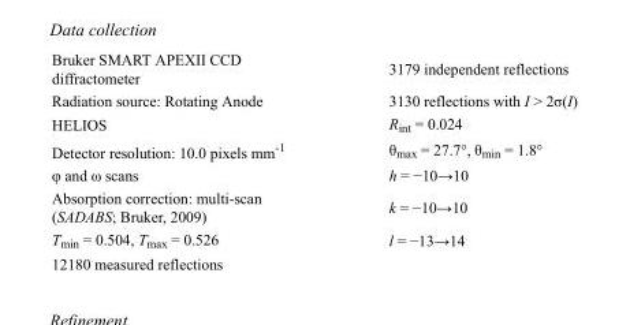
<table><tbody><tr><td>Bruker SMART APEXII CCD diffractometer</td><td>3179 independent reflections</td></tr><tr><td>Radiation source: Rotating Anode</td><td>3130 reflections with I &gt; 2σ(I)</td></tr><tr><td>HELIOS</td><td>R<sub>int</sub> = 0.024</td></tr><tr><td>Detector resolution: 10.0 pixels mm<sup>-1</sup></td><td>θ<sub>max</sub> = 27.7°, θ<sub>min</sub> = 1.8°</td></tr><tr><td>φ and ω scans</td><td>h = −10→10</td></tr><tr><td>Absorption correction: multi-scan (SADABS; Bruker, 2009)</td><td>k = −10→10</td></tr><tr><td>T<sub>min</sub> = 0.504, T<sub>max</sub> = 0.526</td><td>l = −13→14</td></tr><tr><td>12180 measured reflections</td><td></td></tr></tbody></table>